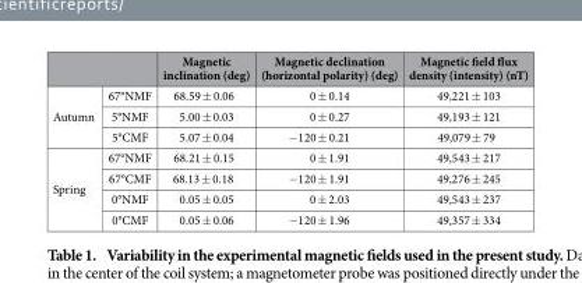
<table><thead><tr><td></td><td></td><td>Magnetic inclination (deg)</td><td>Magnetic declination (horizontal polarity) (deg)</td><td>Magnetic field flux density (intensity) (nT)</td></tr></thead><tbody><tr><td rowspan="3">Autumn</td><td>67°NMF</td><td>68.59 ± 0.06</td><td>0 ± 0.14</td><td>49,221 ± 103</td></tr><tr><td>5°NMF</td><td>5.00 ± 0.03</td><td>0 ± 0.27</td><td>49,193 ± 121</td></tr><tr><td>5°CMF</td><td>5.07 ± 0.04</td><td>− 120 ± 0.21</td><td>49,079 ± 79</td></tr><tr><td rowspan="4">Spring</td><td>67°NMF</td><td>68.21 ± 0.15</td><td>0 ± 1.91</td><td>49,543 ± 217</td></tr><tr><td>67°CMF</td><td>68.13 ± 0.18</td><td>− 120 ± 1.91</td><td>49,276 ± 245</td></tr><tr><td>0°NMF</td><td>0.05 ± 0.05</td><td>0 ± 2.03</td><td>49,543 ± 237</td></tr><tr><td>0°CMF</td><td>0.05 ± 0.06</td><td>− 120 ± 1.96</td><td>49,357 ± 334</td></tr></tbody></table>